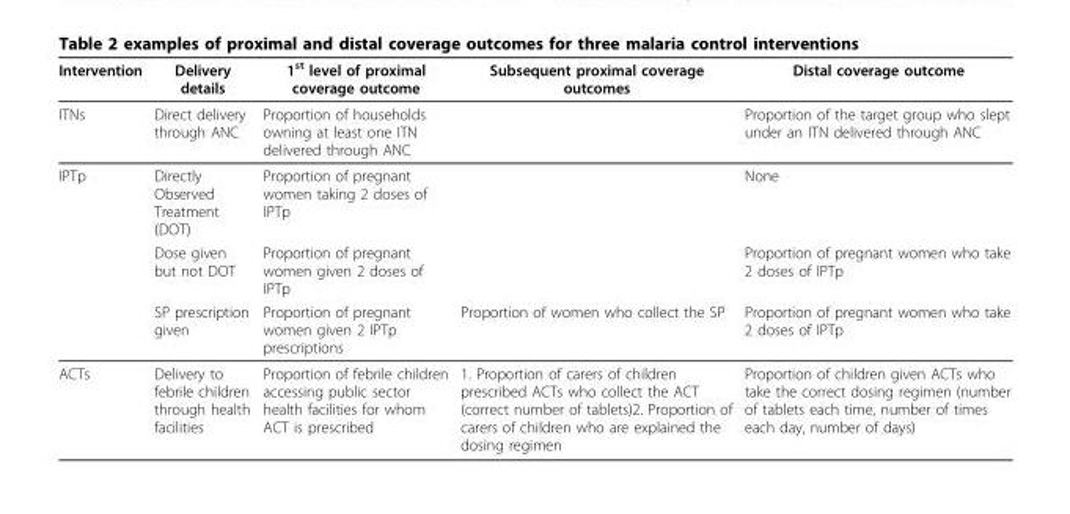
<table><thead><tr><td>Intervention</td><td>Delivery details</td><td>1<sup>st</sup> level of proximal coverage outcome</td><td>Subsequent proximal coverage outcomes</td><td>Distal coverage outcome</td></tr></thead><tbody><tr><td>ITNs</td><td>Direct delivery through ANC</td><td>Proportion of households owning at least one ITN delivered through ANC</td><td></td><td>Proportion of the target group who slept under an ITN delivered through ANC</td></tr><tr><td rowspan="3">IPTp</td><td>Directly Observed Treatment (DOT)</td><td>Proportion of pregnant women taking 2 doses of IPTp</td><td></td><td>None</td></tr><tr><td>Dose given but not DOT</td><td>Proportion of pregnant women given 2 doses of IPTp</td><td></td><td>Proportion of pregnant women who take 2 doses of IPTp</td></tr><tr><td>SP prescription given</td><td>Proportion of pregnant women given 2 IPTp prescriptions</td><td>Proportion of women who collect the SP</td><td>Proportion of pregnant women who take 2 doses of IPTp</td></tr><tr><td>ACTs</td><td>Delivery to febrile children through health facilities</td><td>Proportion of febrile children accessing public sector health facilities for whom ACT is prescribed</td><td>1. Proportion of carers of children prescribed ACTs who collect the ACT (correct number of tablets)2. Proportion of carers of children who are explained the dosing regimen</td><td>Proportion of children given ACTs who take the correct dosing regimen (number of tablets each time, number of times each day, number of days)</td></tr></tbody></table>